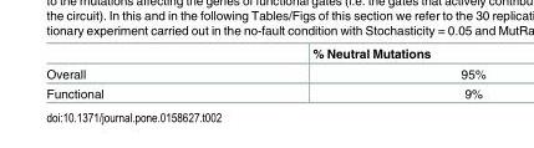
<table><thead><tr><td></td><td>% Neutral Mutations</td></tr></thead><tbody><tr><td>Overall</td><td>95%</td></tr><tr><td>Functional</td><td>9%</td></tr></tbody></table>